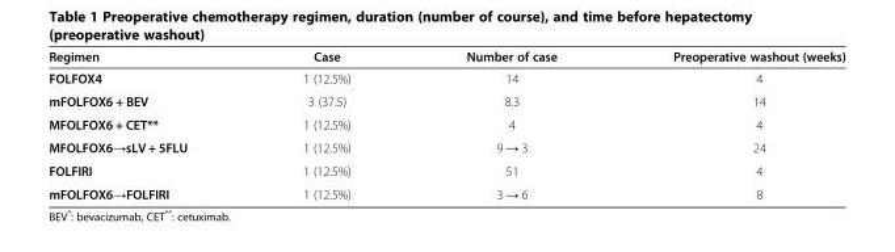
<table><thead><tr><td>Regimen</td><td>Case</td><td>Number of case</td><td>Preoperative washout (weeks)</td></tr></thead><tbody><tr><td>FOLFOX4</td><td>1 (12.5%)</td><td>14</td><td>4</td></tr><tr><td>mFOLFOX6 + BEV</td><td>3 (37.5)</td><td>8.3</td><td>14</td></tr><tr><td>MFOLFOX6 + CET**</td><td>1 (12.5%)</td><td>4</td><td>4</td></tr><tr><td>MFOLFOX6→sLV + 5FLU</td><td>1 (12.5%)</td><td>9 → 3</td><td>24</td></tr><tr><td>FOLFIRI</td><td>1 (12.5%)</td><td>51</td><td>4</td></tr><tr><td>mFOLFOX6→FOLFIRI</td><td>1 (12.5%)</td><td>3 → 6</td><td>8</td></tr></tbody></table>